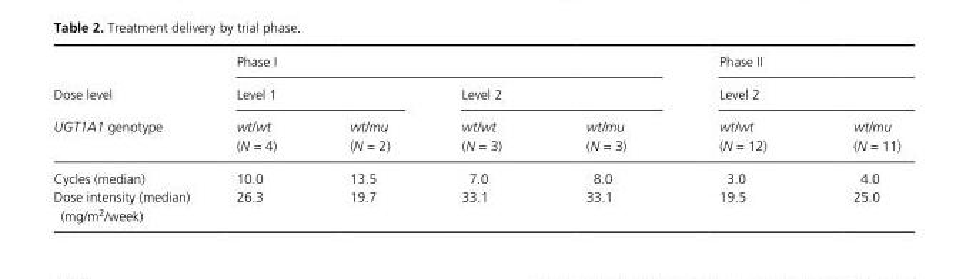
<table><thead><tr><td rowspan="3">Dose level UGT1A1 genotype</td><td colspan="4">Phase I</td><td rowspan="2" colspan="2">Phase II Level 2</td></tr><tr><td colspan="2">Level 1</td><td colspan="2">Level 2</td></tr><tr><td>wt/wt (N = 4)</td><td>wt/mu (N = 2)</td><td>wt/wt (N = 3)</td><td>wt/mu (N = 3)</td><td>wt/wt (N = 12)</td><td>wt/mu (N = 11)</td></tr></thead><tbody><tr><td>Cycles (median)</td><td>10.0</td><td>13.5</td><td>7.0</td><td>8.0</td><td>3.0</td><td>4.0</td></tr><tr><td>Dose intensity (median) (mg/m<sup>2</sup>/week)</td><td>26.3</td><td>19.7</td><td>33.1</td><td>33.1</td><td>19.5</td><td>25.0</td></tr></tbody></table>